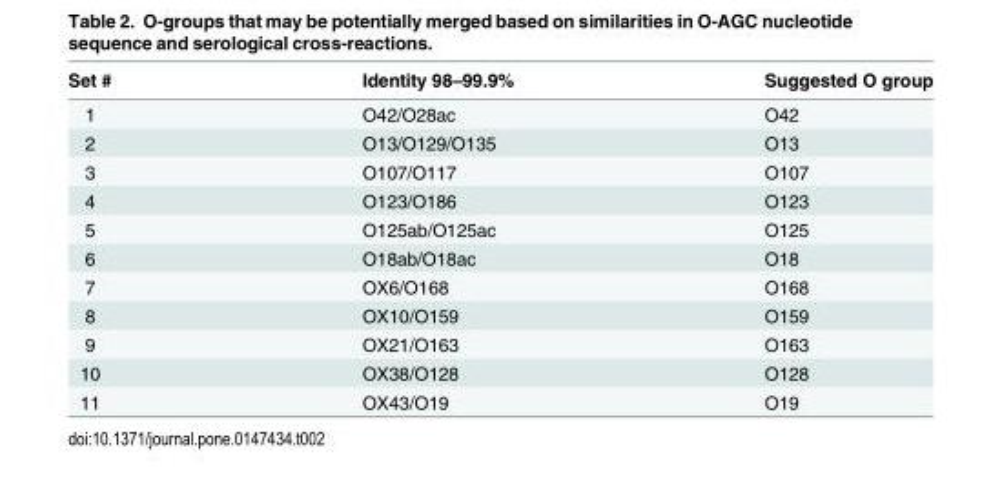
<table><thead><tr><td>Set #</td><td>Identity 98–99.9%</td><td>Suggested O group</td></tr></thead><tbody><tr><td>1</td><td>O42/O28ac</td><td>O42</td></tr><tr><td>2</td><td>O13/O129/O135</td><td>O13</td></tr><tr><td>3</td><td>O107/O117</td><td>O107</td></tr><tr><td>4</td><td>O123/O186</td><td>O123</td></tr><tr><td>5</td><td>O125ab/O125ac</td><td>O125</td></tr><tr><td>6</td><td>O18ab/O18ac</td><td>O18</td></tr><tr><td>7</td><td>OX6/O168</td><td>O168</td></tr><tr><td>8</td><td>OX10/O159</td><td>O159</td></tr><tr><td>9</td><td>OX21/O163</td><td>O163</td></tr><tr><td>10</td><td>OX38/O128</td><td>O128</td></tr><tr><td>11</td><td>OX43/O19</td><td>O19</td></tr></tbody></table>